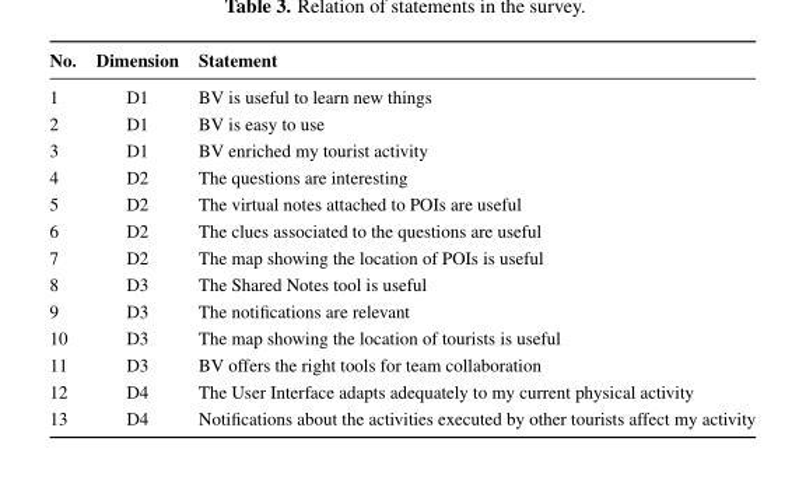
<table><thead><tr><td>No.</td><td>Dimension</td><td>Statement</td></tr></thead><tbody><tr><td>1</td><td>D1</td><td>BV is useful to learn new things</td></tr><tr><td>2</td><td>D1</td><td>BV is easy to use</td></tr><tr><td>3</td><td>D1</td><td>BV enriched my tourist activity</td></tr><tr><td>4</td><td>D2</td><td>The questions are interesting</td></tr><tr><td>5</td><td>D2</td><td>The virtual notes attached to POIs are useful</td></tr><tr><td>6</td><td>D2</td><td>The clues associated to the questions are useful</td></tr><tr><td>7</td><td>D2</td><td>The map showing the location of POIs is useful</td></tr><tr><td>8</td><td>D3</td><td>The Shared Notes tool is useful</td></tr><tr><td>9</td><td>D3</td><td>The notifications are relevant</td></tr><tr><td>10</td><td>D3</td><td>The map showing the location of tourists is useful</td></tr><tr><td>11</td><td>D3</td><td>BV offers the right tools for team collaboration</td></tr><tr><td>12</td><td>D4</td><td>The User Interface adapts adequately to my current physical activity</td></tr><tr><td>13</td><td>D4</td><td>Notifications about the activities executed by other tourists affect my activity</td></tr></tbody></table>